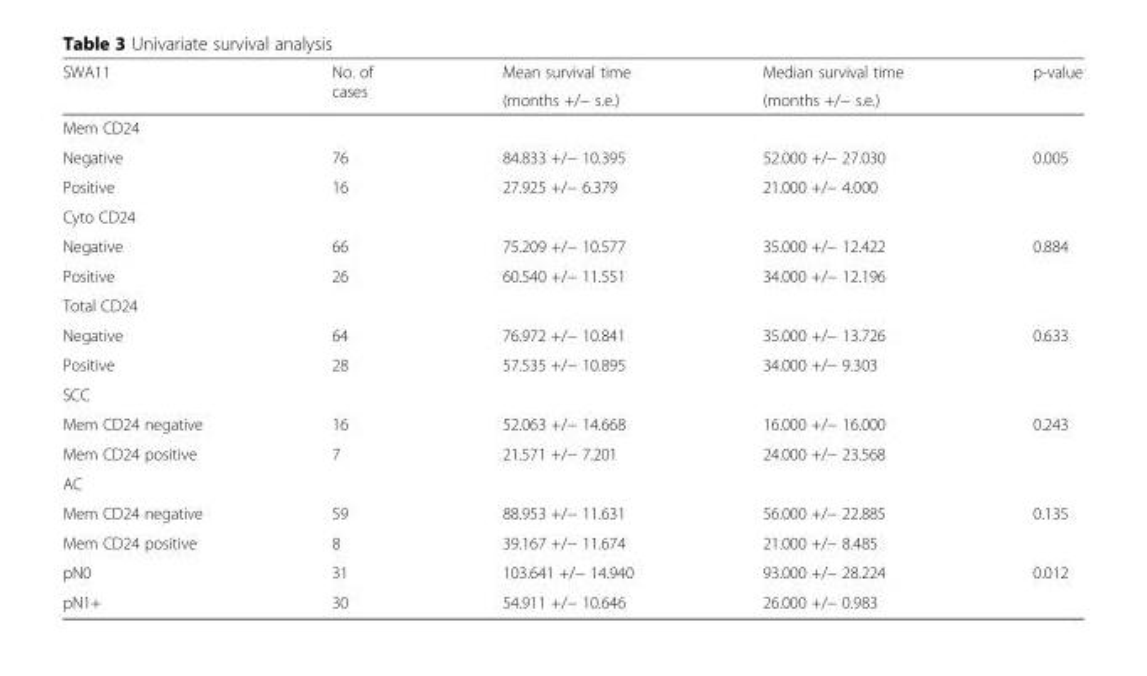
<table><thead><tr><td rowspan="2">SWA11</td><td rowspan="2">No. of cases</td><td rowspan="2">Mean survival time (months +/− s.e.)</td><td rowspan="2">Median survival time (months +/− s.e.)</td><td rowspan="2">p-value</td></tr><tr></tr></thead><tbody><tr><td colspan="5">Mem CD24</td></tr><tr><td>Negative</td><td>76</td><td>84.833 +/− 10.395</td><td>52.000 +/− 27.030</td><td>0.005</td></tr><tr><td>Positive</td><td>16</td><td>27.925 +/− 6.379</td><td>21.000 +/− 4.000</td><td></td></tr><tr><td colspan="5">Cyto CD24</td></tr><tr><td>Negative</td><td>66</td><td>75.209 +/− 10.577</td><td>35.000 +/− 12.422</td><td>0.884</td></tr><tr><td>Positive</td><td>26</td><td>60.540 +/− 11.551</td><td>34.000 +/− 12.196</td><td></td></tr><tr><td colspan="5">Total CD24</td></tr><tr><td>Negative</td><td>64</td><td>76.972 +/− 10.841</td><td>35.000 +/− 13.726</td><td>0.633</td></tr><tr><td>Positive</td><td>28</td><td>57.535 +/− 10.895</td><td>34.000 +/− 9.303</td><td></td></tr><tr><td colspan="5">SCC</td></tr><tr><td>Mem CD24 negative</td><td>16</td><td>52.063 +/− 14.668</td><td>16.000 +/− 16.000</td><td>0.243</td></tr><tr><td>Mem CD24 positive</td><td>7</td><td>21.571 +/− 7.201</td><td>24.000 +/− 23.568</td><td></td></tr><tr><td colspan="5">AC</td></tr><tr><td>Mem CD24 negative</td><td>59</td><td>88.953 +/− 11.631</td><td>56.000 +/− 22.885</td><td>0.135</td></tr><tr><td>Mem CD24 positive</td><td>8</td><td>39.167 +/− 11.674</td><td>21.000 +/− 8.485</td><td></td></tr><tr><td>pN0</td><td>31</td><td>103.641 +/− 14.940</td><td>93.000 +/− 28.224</td><td>0.012</td></tr><tr><td>pN1+</td><td>30</td><td>54.911 +/− 10.646</td><td>26.000 +/− 0.983</td><td></td></tr></tbody></table>